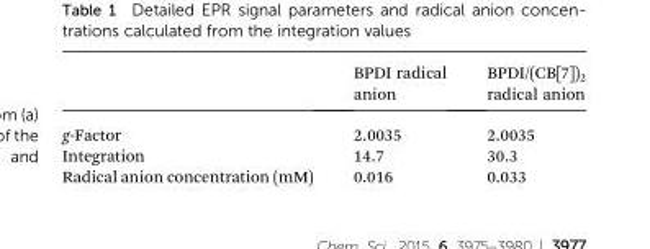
<table><thead><tr><td></td><td>BPDI radical anion</td><td>BPDI/(CB[7])<sub>2</sub> radical anion</td></tr></thead><tbody><tr><td>g-Factor</td><td>2.0035</td><td>2.0035</td></tr><tr><td>Integration</td><td>14.7</td><td>30.3</td></tr><tr><td>Radical anion concentration (mM)</td><td>0.016</td><td>0.033</td></tr></tbody></table>